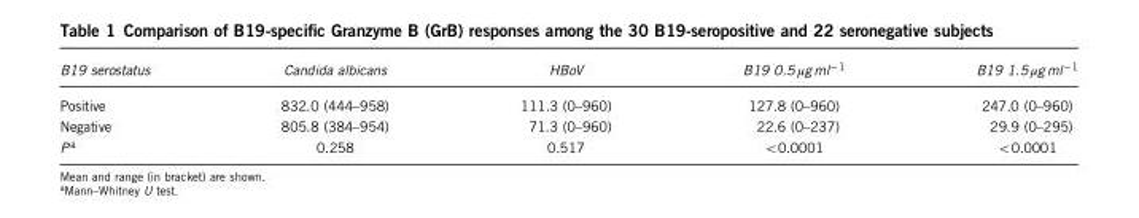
<table><thead><tr><td>B19 serostatus</td><td>Candida albicans</td><td>HBoV</td><td>B19 0.5 μg ml<sup>− 1</sup></td><td>B19 1.5 μg ml<sup>− 1</sup></td></tr></thead><tbody><tr><td>Positive</td><td>832.0 (444–958)</td><td>111.3 (0–960)</td><td>127.8 (0–960)</td><td>247.0 (0–960)</td></tr><tr><td>Negative</td><td>805.8 (384–954)</td><td>71.3 (0–960)</td><td>22.6 (0–237)</td><td>29.9 (0–295)</td></tr><tr><td>P <sup>a</sup></td><td>0.258</td><td>0.517</td><td>&lt;0.0001</td><td>&lt;0.0001</td></tr></tbody></table>